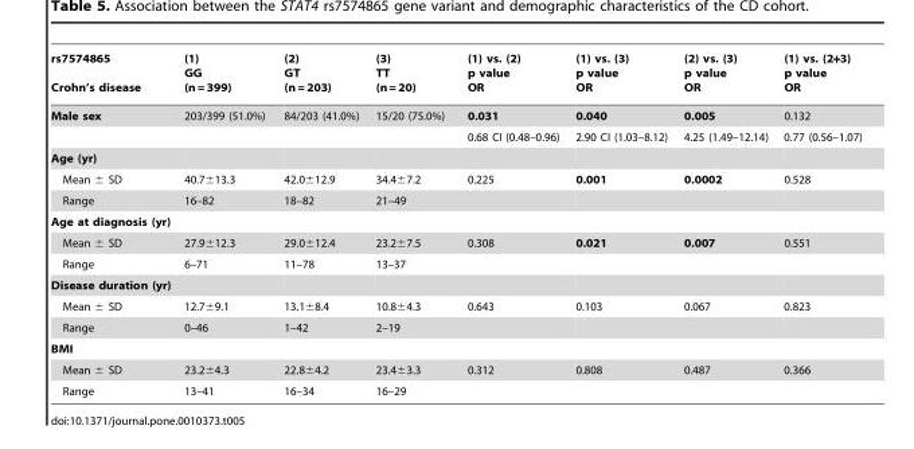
<table><thead><tr><td>rs7574865 Crohn’s disease</td><td>(1) GG (n = 399)</td><td>(2) GT (n = 203)</td><td>(3) TT (n = 20)</td><td>(1) vs. (2) p value OR</td><td>(1) vs. (3) p value OR</td><td>(2) vs. (3) p value OR</td><td>(1) vs. (2+3) p value OR</td></tr></thead><tbody><tr><td rowspan="2">Male sex</td><td>203/399 (51.0%)</td><td>84/203 (41.0%)</td><td>15/20 (75.0%)</td><td>0.031</td><td>0.040</td><td>0.005</td><td>0.132</td></tr><tr><td></td><td></td><td></td><td>0.68 CI (0.48–0.96)</td><td>2.90 CI (1.03–8.12)</td><td>4.25 (1.49–12.14)</td><td>0.77 (0.56–1.07)</td></tr><tr><td colspan="8">Age (yr)</td></tr><tr><td>Mean ± SD</td><td>40.7±13.3</td><td>42.0±12.9</td><td>34.4±7.2</td><td>0.225</td><td>0.001</td><td>0.0002</td><td>0.528</td></tr><tr><td>Range</td><td>16–82</td><td>18–82</td><td>21–49</td><td></td><td></td><td></td><td></td></tr><tr><td colspan="8">Age at diagnosis (yr)</td></tr><tr><td>Mean ± SD</td><td>27.9±12.3</td><td>29.0±12.4</td><td>23.2±7.5</td><td>0.308</td><td>0.021</td><td>0.007</td><td>0.551</td></tr><tr><td>Range</td><td>6–71</td><td>11–78</td><td>13–37</td><td></td><td></td><td></td><td></td></tr><tr><td colspan="8">Disease duration (yr)</td></tr><tr><td>Mean ± SD</td><td>12.7±9.1</td><td>13.1±8.4</td><td>10.8±4.3</td><td>0.643</td><td>0.103</td><td>0.067</td><td>0.823</td></tr><tr><td>Range</td><td>0–46</td><td>1–42</td><td>2–19</td><td></td><td></td><td></td><td></td></tr><tr><td colspan="8">BMI</td></tr><tr><td>Mean ± SD</td><td>23.2±4.3</td><td>22.8±4.2</td><td>23.4±3.3</td><td>0.312</td><td>0.808</td><td>0.487</td><td>0.366</td></tr><tr><td>Range</td><td>13–41</td><td>16–34</td><td>16–29</td><td></td><td></td><td></td><td></td></tr></tbody></table>